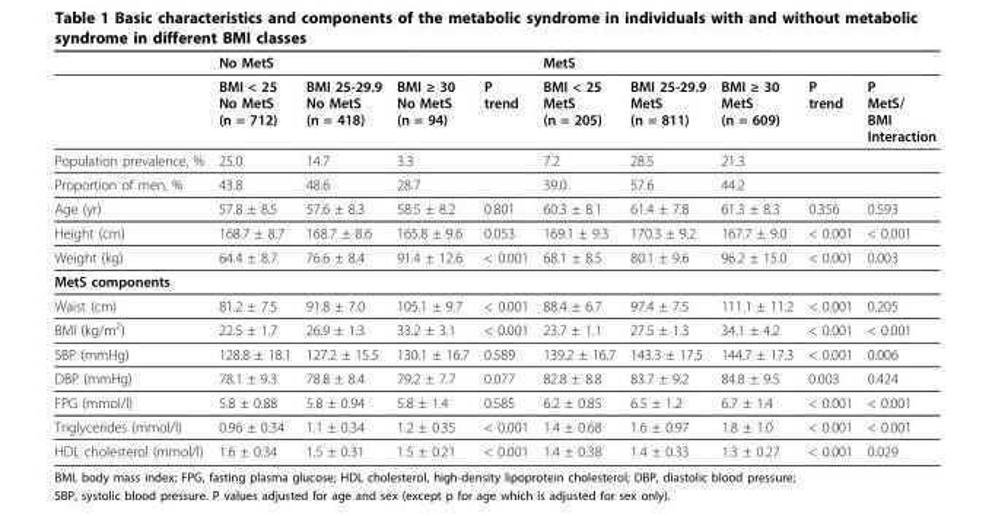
<table><thead><tr><td rowspan="2"></td><td colspan="4">No MetS</td><td colspan="4">MetS</td><td rowspan="2">P MetS/ BMI Interaction</td></tr><tr><td>BMI &lt; 25 No MetS (n = 712)</td><td>BMI 25-29.9 No MetS (n = 418)</td><td>BMI ≥ 30 No MetS (n = 94)</td><td>P trend</td><td>BMI &lt; 25 MetS (n = 205)</td><td>BMI 25-29.9 MetS (n = 811)</td><td>BMI ≥ 30 MetS (n = 609)</td><td>P trend</td></tr></thead><tbody><tr><td>Population prevalence, %</td><td>25.0</td><td>14.7</td><td>3.3</td><td></td><td>7.2</td><td>28.5</td><td>21.3</td><td></td><td></td></tr><tr><td>Proportion of men, %</td><td>43.8</td><td>48.6</td><td>28.7</td><td></td><td>39.0</td><td>57.6</td><td>44.2</td><td></td><td></td></tr><tr><td>Age (yr)</td><td>57.8 ± 8.5</td><td>57.6 ± 8.3</td><td>58.5 ± 8.2</td><td>0.801</td><td>60.3 ± 8.1</td><td>61.4 ± 7.8</td><td>61.3 ± 8.3</td><td>0.356</td><td>0.593</td></tr><tr><td>Height (cm)</td><td>168.7 ± 8.7</td><td>168.7 ± 8.6</td><td>165.8 ± 9.6</td><td>0.053</td><td>169.1 ± 9.3</td><td>170.3 ± 9.2</td><td>167.7 ± 9.0</td><td>&lt; 0.001</td><td>&lt; 0.001</td></tr><tr><td>Weight (kg)</td><td>64.4 ± 8.7</td><td>76.6 ± 8.4</td><td>91.4 ± 12.6</td><td>&lt; 0.001</td><td>68.1 ± 8.5</td><td>80.1 ± 9.6</td><td>96.2 ± 15.0</td><td>&lt; 0.001</td><td>0.003</td></tr><tr><td colspan="10">MetS components</td></tr><tr><td>Waist (cm)</td><td>81.2 ± 7.5</td><td>91.8 ± 7.0</td><td>105.1 ± 9.7</td><td>&lt; 0.001</td><td>88.4 ± 6.7</td><td>97.4 ± 7.5</td><td>111.1 ± 11.2</td><td>&lt; 0.001</td><td>0.205</td></tr><tr><td>BMI (kg/m<sup>2</sup>)</td><td>22.5 ± 1.7</td><td>26.9 ± 1.3</td><td>33.2 ± 3.1</td><td>&lt; 0.001</td><td>23.7 ± 1.1</td><td>27.5 ± 1.3</td><td>34.1 ± 4.2</td><td>&lt; 0.001</td><td>&lt; 0.001</td></tr><tr><td>SBP (mmHg)</td><td>128.8 ± 18.1</td><td>127.2 ± 15.5</td><td>130.1 ± 16.7</td><td>0.589</td><td>139.2 ± 16.7</td><td>143.3 ± 17.5</td><td>144.7 ± 17.3</td><td>&lt; 0.001</td><td>0.006</td></tr><tr><td>DBP (mmHg)</td><td>78.1 ± 9.3</td><td>78.8 ± 8.4</td><td>79.2 ± 7.7</td><td>0.077</td><td>82.8 ± 8.8</td><td>83.7 ± 9.2</td><td>84.8 ± 9.5</td><td>0.003</td><td>0.424</td></tr><tr><td>FPG (mmol/l)</td><td>5.8 ± 0.88</td><td>5.8 ± 0.94</td><td>5.8 ± 1.4</td><td>0.585</td><td>6.2 ± 0.85</td><td>6.5 ± 1.2</td><td>6.7 ± 1.4</td><td>&lt; 0.001</td><td>&lt; 0.001</td></tr><tr><td>Triglycerides (mmol/l)</td><td>0.96 ± 0.34</td><td>1.1 ± 0.34</td><td>1.2 ± 0.35</td><td>&lt; 0.001</td><td>1.4 ± 0.68</td><td>1.6 ± 0.97</td><td>1.8 ± 1.0</td><td>&lt; 0.001</td><td>&lt; 0.001</td></tr><tr><td>HDL cholesterol (mmol/l)</td><td>1.6 ± 0.34</td><td>1.5 ± 0.31</td><td>1.5 ± 0.21</td><td>&lt; 0.001</td><td>1.4 ± 0.38</td><td>1.4 ± 0.33</td><td>1.3 ± 0.27</td><td>&lt; 0.001</td><td>0.029</td></tr></tbody></table>